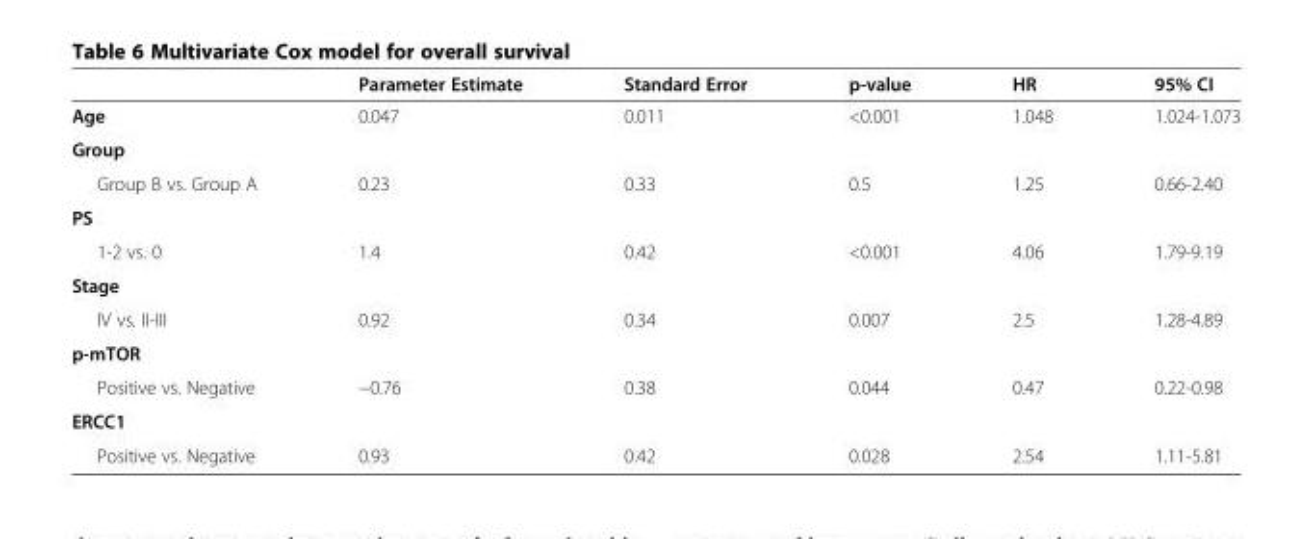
<table><thead><tr><td></td><td>Parameter Estimate</td><td>Standard Error</td><td>p-value</td><td>HR</td><td>95% CI</td></tr></thead><tbody><tr><td>Age</td><td>0.047</td><td>0.011</td><td>&lt;0.001</td><td>1.048</td><td>1.024-1.073</td></tr><tr><td colspan="6">Group</td></tr><tr><td>Group B vs. Group A</td><td>0.23</td><td>0.33</td><td>0.5</td><td>1.25</td><td>0.66-2.40</td></tr><tr><td colspan="6">PS</td></tr><tr><td>1-2 vs. 0</td><td>1.4</td><td>0.42</td><td>&lt;0.001</td><td>4.06</td><td>1.79-9.19</td></tr><tr><td colspan="6">Stage</td></tr><tr><td>IV vs. II-III</td><td>0.92</td><td>0.34</td><td>0.007</td><td>2.5</td><td>1.28-4.89</td></tr><tr><td colspan="6">p-mTOR</td></tr><tr><td>Positive vs. Negative</td><td>−0.76</td><td>0.38</td><td>0.044</td><td>0.47</td><td>0.22-0.98</td></tr><tr><td colspan="6">ERCC1</td></tr><tr><td>Positive vs. Negative</td><td>0.93</td><td>0.42</td><td>0.028</td><td>2.54</td><td>1.11-5.81</td></tr></tbody></table>